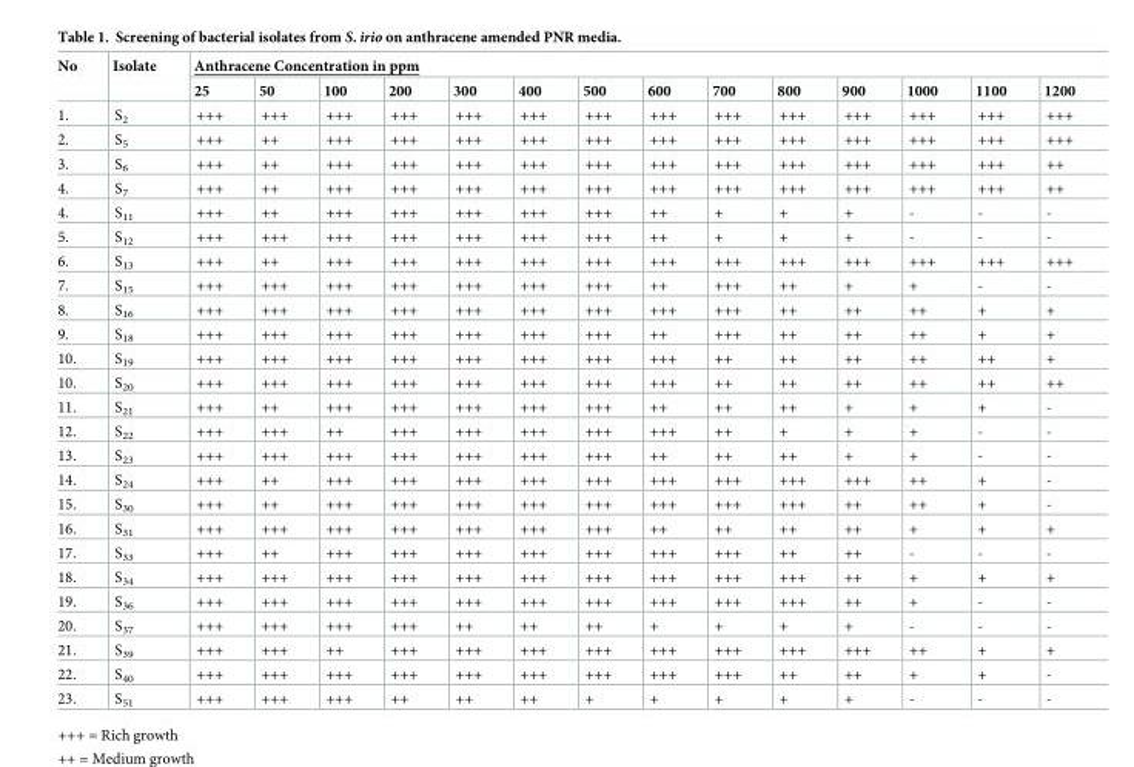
<table><thead><tr><td rowspan="2">No</td><td rowspan="2">Isolate</td><td colspan="14">Anthracene Concentration in ppm</td></tr><tr><td>25</td><td>50</td><td>100</td><td>200</td><td>300</td><td>400</td><td>500</td><td>600</td><td>700</td><td>800</td><td>900</td><td>1000</td><td>1100</td><td>1200</td></tr></thead><tbody><tr><td>1.</td><td>S<sub>2</sub></td><td>+++</td><td>+++</td><td>+++</td><td>+++</td><td>+++</td><td>+++</td><td>+++</td><td>+++</td><td>+++</td><td>+++</td><td>+++</td><td>+++</td><td>+++</td><td>+++</td></tr><tr><td>2.</td><td>S<sub>5</sub></td><td>+++</td><td>++</td><td>+++</td><td>+++</td><td>+++</td><td>+++</td><td>+++</td><td>+++</td><td>+++</td><td>+++</td><td>+++</td><td>+++</td><td>+++</td><td>+++</td></tr><tr><td>3.</td><td>S<sub>6</sub></td><td>+++</td><td>++</td><td>+++</td><td>+++</td><td>+++</td><td>+++</td><td>+++</td><td>+++</td><td>+++</td><td>+++</td><td>+++</td><td>+++</td><td>+++</td><td>++</td></tr><tr><td>4.</td><td>S<sub>7</sub></td><td>+++</td><td>++</td><td>+++</td><td>+++</td><td>+++</td><td>+++</td><td>+++</td><td>+++</td><td>+++</td><td>+++</td><td>+++</td><td>+++</td><td>+++</td><td>++</td></tr><tr><td>4.</td><td>S<sub>11</sub></td><td>+++</td><td>++</td><td>+++</td><td>+++</td><td>+++</td><td>+++</td><td>+++</td><td>++</td><td>+</td><td>+</td><td>+</td><td>-</td><td>-</td><td>-</td></tr><tr><td>5.</td><td>S<sub>12</sub></td><td>+++</td><td>+++</td><td>+++</td><td>+++</td><td>+++</td><td>+++</td><td>+++</td><td>++</td><td>+</td><td>+</td><td>+</td><td>-</td><td>-</td><td>-</td></tr><tr><td>6.</td><td>S<sub>13</sub></td><td>+++</td><td>++</td><td>+++</td><td>+++</td><td>+++</td><td>+++</td><td>+++</td><td>+++</td><td>+++</td><td>+++</td><td>+++</td><td>+++</td><td>+++</td><td>+++</td></tr><tr><td>7.</td><td>S<sub>15</sub></td><td>+++</td><td>+++</td><td>+++</td><td>+++</td><td>+++</td><td>+++</td><td>+++</td><td>++</td><td>+++</td><td>++</td><td>+</td><td>+</td><td>-</td><td>-</td></tr><tr><td>8.</td><td>S<sub>16</sub></td><td>+++</td><td>+++</td><td>+++</td><td>+++</td><td>+++</td><td>+++</td><td>+++</td><td>+++</td><td>+++</td><td>++</td><td>++</td><td>++</td><td>+</td><td>+</td></tr><tr><td>9.</td><td>S<sub>18</sub></td><td>+++</td><td>+++</td><td>+++</td><td>+++</td><td>+++</td><td>+++</td><td>+++</td><td>++</td><td>+++</td><td>++</td><td>++</td><td>++</td><td>+</td><td>+</td></tr><tr><td>10.</td><td>S<sub>19</sub></td><td>+++</td><td>+++</td><td>+++</td><td>+++</td><td>+++</td><td>+++</td><td>+++</td><td>+++</td><td>++</td><td>++</td><td>++</td><td>++</td><td>++</td><td>+</td></tr><tr><td>10.</td><td>S<sub>20</sub></td><td>+++</td><td>+++</td><td>+++</td><td>+++</td><td>+++</td><td>+++</td><td>+++</td><td>+++</td><td>++</td><td>++</td><td>++</td><td>++</td><td>++</td><td>++</td></tr><tr><td>11.</td><td>S<sub>21</sub></td><td>+++</td><td>++</td><td>+++</td><td>+++</td><td>+++</td><td>+++</td><td>+++</td><td>++</td><td>++</td><td>++</td><td>+</td><td>+</td><td>+</td><td>-</td></tr><tr><td>12.</td><td>S<sub>22</sub></td><td>+++</td><td>+++</td><td>++</td><td>+++</td><td>+++</td><td>+++</td><td>+++</td><td>+++</td><td>++</td><td>+</td><td>+</td><td>+</td><td>-</td><td>-</td></tr><tr><td>13.</td><td>S<sub>23</sub></td><td>+++</td><td>+++</td><td>+++</td><td>+++</td><td>+++</td><td>+++</td><td>+++</td><td>++</td><td>++</td><td>++</td><td>+</td><td>+</td><td>-</td><td>-</td></tr><tr><td>14.</td><td>S<sub>24</sub></td><td>+++</td><td>++</td><td>+++</td><td>+++</td><td>+++</td><td>+++</td><td>+++</td><td>+++</td><td>+++</td><td>+++</td><td>+++</td><td>++</td><td>+</td><td>-</td></tr><tr><td>15.</td><td>S<sub>30</sub></td><td>+++</td><td>++</td><td>+++</td><td>+++</td><td>+++</td><td>+++</td><td>+++</td><td>+++</td><td>+++</td><td>+++</td><td>++</td><td>++</td><td>+</td><td>-</td></tr><tr><td>16.</td><td>S<sub>31</sub></td><td>+++</td><td>+++</td><td>+++</td><td>+++</td><td>+++</td><td>+++</td><td>+++</td><td>++</td><td>++</td><td>++</td><td>++</td><td>+</td><td>+</td><td>+</td></tr><tr><td>17.</td><td>S<sub>33</sub></td><td>+++</td><td>++</td><td>+++</td><td>+++</td><td>+++</td><td>+++</td><td>+++</td><td>+++</td><td>+++</td><td>++</td><td>++</td><td>-</td><td>-</td><td>-</td></tr><tr><td>18.</td><td>S<sub>34</sub></td><td>+++</td><td>+++</td><td>+++</td><td>+++</td><td>+++</td><td>+++</td><td>+++</td><td>+++</td><td>+++</td><td>+++</td><td>++</td><td>+</td><td>+</td><td>+</td></tr><tr><td>19.</td><td>S<sub>36</sub></td><td>+++</td><td>+++</td><td>+++</td><td>+++</td><td>+++</td><td>+++</td><td>+++</td><td>+++</td><td>+++</td><td>+++</td><td>++</td><td>+</td><td>-</td><td>-</td></tr><tr><td>20.</td><td>S<sub>37</sub></td><td>+++</td><td>+++</td><td>+++</td><td>+++</td><td>++</td><td>++</td><td>++</td><td>+</td><td>+</td><td>+</td><td>+</td><td>-</td><td>-</td><td>-</td></tr><tr><td>21.</td><td>S<sub>39</sub></td><td>+++</td><td>+++</td><td>++</td><td>+++</td><td>+++</td><td>+++</td><td>+++</td><td>+++</td><td>+++</td><td>+++</td><td>+++</td><td>++</td><td>+</td><td>+</td></tr><tr><td>22.</td><td>S<sub>40</sub></td><td>+++</td><td>+++</td><td>+++</td><td>+++</td><td>+++</td><td>+++</td><td>+++</td><td>+++</td><td>+++</td><td>++</td><td>++</td><td>+</td><td>+</td><td>-</td></tr><tr><td>23.</td><td>S<sub>51</sub></td><td>+++</td><td>+++</td><td>+++</td><td>++</td><td>++</td><td>++</td><td>+</td><td>+</td><td>+</td><td>+</td><td>+</td><td>-</td><td>-</td><td>-</td></tr></tbody></table>